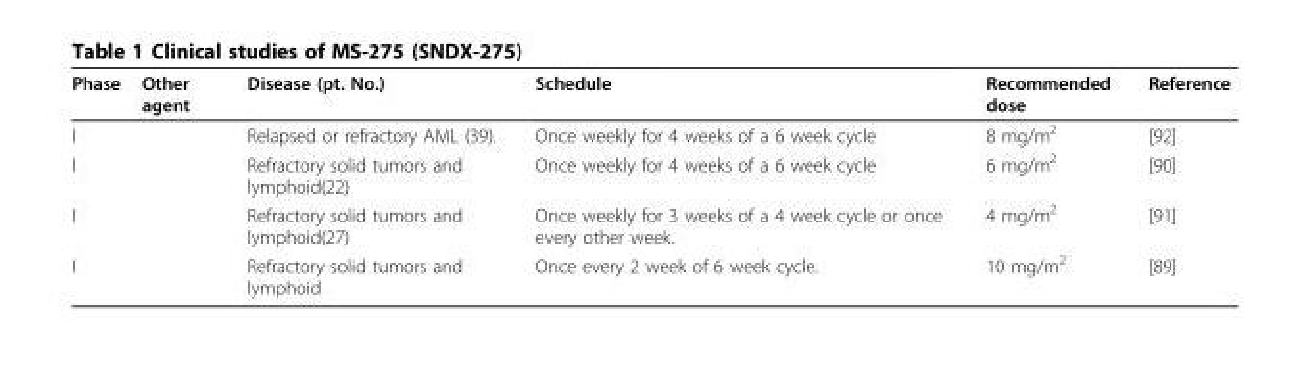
<table><thead><tr><td>Phase</td><td>Other agent</td><td>Disease (pt. No.)</td><td>Schedule</td><td>Recommended dose</td><td>Reference</td></tr></thead><tbody><tr><td>I</td><td></td><td>Relapsed or refractory AML (39).</td><td>Once weekly for 4 weeks of a 6 week cycle</td><td>8 mg/m<sup>2</sup></td><td>[92]</td></tr><tr><td>I</td><td></td><td>Refractory solid tumors and lymphoid(22)</td><td>Once weekly for 4 weeks of a 6 week cycle</td><td>6 mg/m<sup>2</sup></td><td>[90]</td></tr><tr><td>I</td><td></td><td>Refractory solid tumors and lymphoid(27)</td><td>Once weekly for 3 weeks of a 4 week cycle or once every other week.</td><td>4 mg/m<sup>2</sup></td><td>[91]</td></tr><tr><td>I</td><td></td><td>Refractory solid tumors and lymphoid</td><td>Once every 2 week of 6 week cycle.</td><td>10 mg/m<sup>2</sup></td><td>[89]</td></tr></tbody></table>